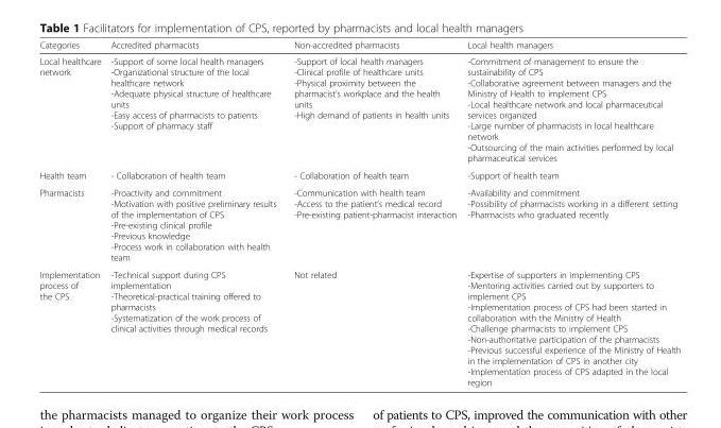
<table><thead><tr><td>Categories</td><td>Accredited pharmacists</td><td>Non-accredited pharmacists</td><td>Local health managers</td></tr></thead><tbody><tr><td>Local healthcare network</td><td>-Support of some local health managers -Organizational structure of the local healthcare network -Adequate physical structure of healthcare units -Easy access of pharmacists to patients -Support of pharmacy staff</td><td>-Support of local health managers -Clinical profile of healthcare units -Physical proximity between the pharmacist’s workplace and the health units -High demand of patients in health units</td><td>-Commitment of management to ensure the sustainability of CPS -Collaborative agreement between managers and the Ministry of Health to implement CPS -Local healthcare network and local pharmaceutical services organized -Large number of pharmacists in local healthcare network -Outsourcing of the main activities performed by local pharmaceutical services</td></tr><tr><td>Health team</td><td>- Collaboration of health team</td><td>- Collaboration of health team</td><td>-Support of health team</td></tr><tr><td>Pharmacists</td><td>-Proactivity and commitment -Motivation with positive preliminary results of the implementation of CPS -Pre-existing clinical profile -Previous knowledge -Process work in collaboration with health team</td><td>-Communication with health team -Access to the patient’s medical record -Pre-existing patient-pharmacist interaction</td><td>-Availability and commitment -Possibility of pharmacists working in a different setting -Pharmacists who graduated recently</td></tr><tr><td>Implementation process of the CPS</td><td>-Technical support during CPS implementation -Theoretical-practical training offered to pharmacists -Systematization of the work process of clinical activities through medical records</td><td>Not related</td><td>-Expertise of supporters in implementing CPS -Mentoring activities carried out by supporters to implement CPS -Implementation process of CPS had been started in collaboration with the Ministry of Health -Challenge pharmacists to implement CPS -Non-authoritative participation of the pharmacists -Previous successful experience of the Ministry of Health in the implementation of CPS in another city -Implementation process of CPS adapted in the local region</td></tr></tbody></table>